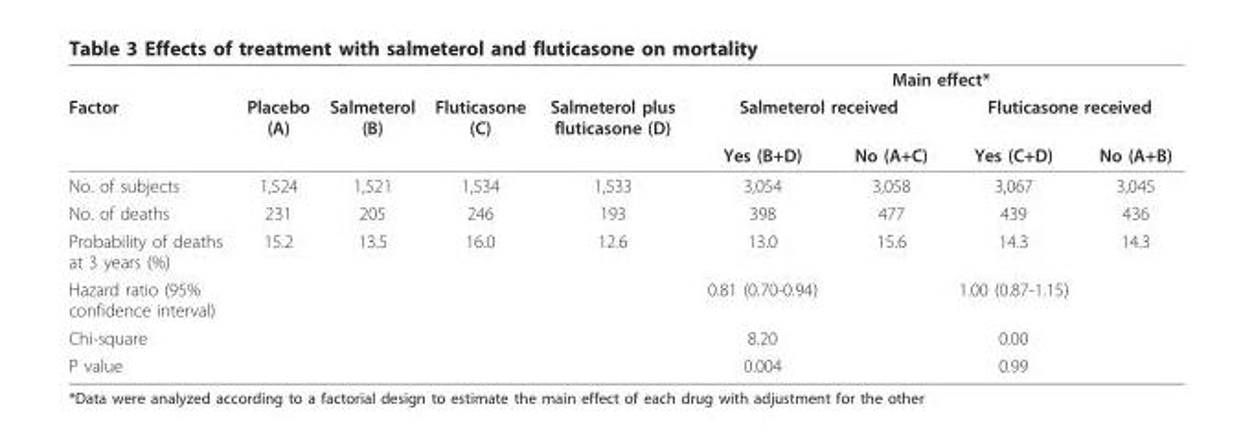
<table><thead><tr><td rowspan="3">Factor</td><td rowspan="3">Placebo (A)</td><td rowspan="3">Salmeterol (B)</td><td rowspan="3">Fluticasone (C)</td><td rowspan="3">Salmeterol plus fluticasone (D)</td><td colspan="4">Main effect*</td></tr><tr><td colspan="2">Salmeterol received</td><td colspan="2">Fluticasone received</td></tr><tr><td>Yes (B+D)</td><td>No (A+C)</td><td>Yes (C+D)</td><td>No (A+B)</td></tr></thead><tbody><tr><td>No. of subjects</td><td>1,524</td><td>1,521</td><td>1,534</td><td>1,533</td><td>3,054</td><td>3,058</td><td>3,067</td><td>3,045</td></tr><tr><td>No. of deaths</td><td>231</td><td>205</td><td>246</td><td>193</td><td>398</td><td>477</td><td>439</td><td>436</td></tr><tr><td>Probability of deaths at 3 years (%)</td><td>15.2</td><td>13.5</td><td>16.0</td><td>12.6</td><td>13.0</td><td>15.6</td><td>14.3</td><td>14.3</td></tr><tr><td>Hazard ratio (95% confidence interval)</td><td></td><td></td><td></td><td></td><td>0.81 (0.70-0.94)</td><td></td><td>1.00 (0.87-1.15)</td><td></td></tr><tr><td>Chi-square</td><td></td><td></td><td></td><td></td><td>8.20</td><td></td><td>0.00</td><td></td></tr><tr><td>P value</td><td></td><td></td><td></td><td></td><td>0.004</td><td></td><td>0.99</td><td></td></tr></tbody></table>